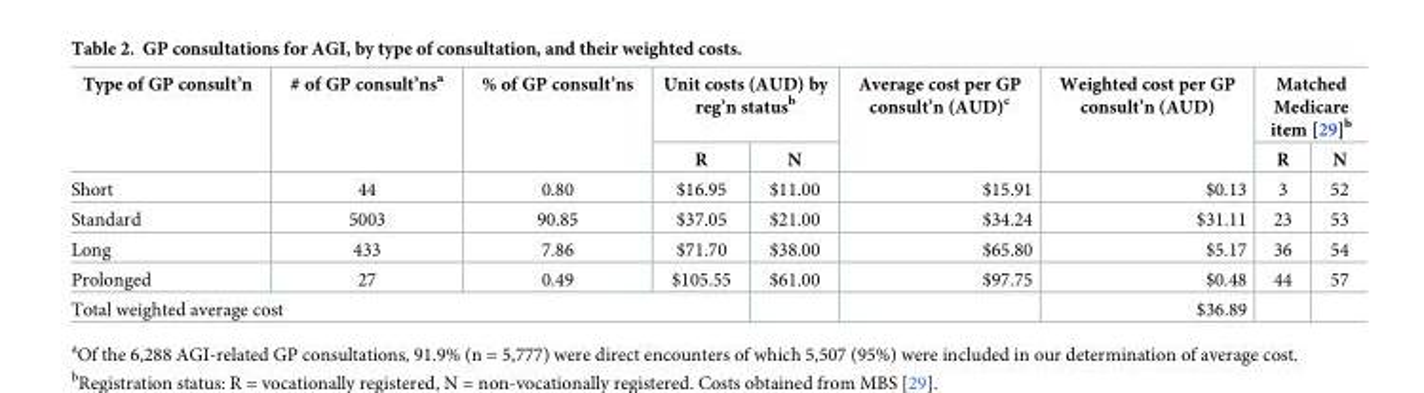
<table><thead><tr><td rowspan="2">Type of GP consult’n</td><td rowspan="2"># of GP consult’ns<sup>a</sup></td><td rowspan="2">% of GP consult’ns</td><td colspan="2">Unit costs (AUD) by reg’n status<sup>b</sup></td><td rowspan="2">Average cost per GP consult’n (AUD)<sup>c</sup></td><td rowspan="2">Weighted cost per GP consult’n (AUD)</td><td colspan="2">Matched Medicare item [29]<sup>b</sup></td></tr><tr><td>R</td><td>N</td><td>R</td><td>N</td></tr></thead><tbody><tr><td>Short</td><td>44</td><td>0.80</td><td>$16.95</td><td>$11.00</td><td>$15.91</td><td>$0.13</td><td>3</td><td>52</td></tr><tr><td>Standard</td><td>5003</td><td>90.85</td><td>$37.05</td><td>$21.00</td><td>$34.24</td><td>$31.11</td><td>23</td><td>53</td></tr><tr><td>Long</td><td>433</td><td>7.86</td><td>$71.70</td><td>$38.00</td><td>$65.80</td><td>$5.17</td><td>36</td><td>54</td></tr><tr><td>Prolonged</td><td>27</td><td>0.49</td><td>$105.55</td><td>$61.00</td><td>$97.75</td><td>$0.48</td><td>44</td><td>57</td></tr><tr><td colspan="4">Total weighted average cost</td><td></td><td></td><td>$36.89</td><td></td><td></td></tr></tbody></table>